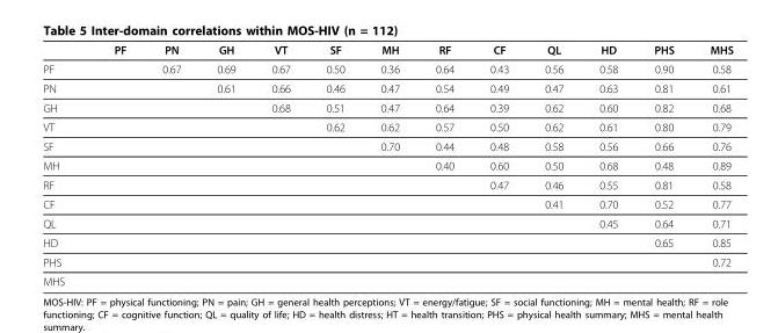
<table><thead><tr><td></td><td>PF</td><td>PN</td><td>GH</td><td>VT</td><td>SF</td><td>MH</td><td>RF</td><td>CF</td><td>QL</td><td>HD</td><td>PHS</td><td>MHS</td></tr></thead><tbody><tr><td>PF</td><td></td><td>0.67</td><td>0.69</td><td>0.67</td><td>0.50</td><td>0.36</td><td>0.64</td><td>0.43</td><td>0.56</td><td>0.58</td><td>0.90</td><td>0.58</td></tr><tr><td>PN</td><td></td><td></td><td>0.61</td><td>0.66</td><td>0.46</td><td>0.47</td><td>0.54</td><td>0.49</td><td>0.47</td><td>0.63</td><td>0.81</td><td>0.61</td></tr><tr><td>GH</td><td></td><td></td><td></td><td>0.68</td><td>0.51</td><td>0.47</td><td>0.64</td><td>0.39</td><td>0.62</td><td>0.60</td><td>0.82</td><td>0.68</td></tr><tr><td>VT</td><td></td><td></td><td></td><td></td><td>0.62</td><td>0.62</td><td>0.57</td><td>0.50</td><td>0.62</td><td>0.61</td><td>0.80</td><td>0.79</td></tr><tr><td>SF</td><td></td><td></td><td></td><td></td><td></td><td>0.70</td><td>0.44</td><td>0.48</td><td>0.58</td><td>0.56</td><td>0.66</td><td>0.76</td></tr><tr><td>MH</td><td></td><td></td><td></td><td></td><td></td><td></td><td>0.40</td><td>0.60</td><td>0.50</td><td>0.68</td><td>0.48</td><td>0.89</td></tr><tr><td>RF</td><td></td><td></td><td></td><td></td><td></td><td></td><td></td><td>0.47</td><td>0.46</td><td>0.55</td><td>0.81</td><td>0.58</td></tr><tr><td>CF</td><td></td><td></td><td></td><td></td><td></td><td></td><td></td><td></td><td>0.41</td><td>0.70</td><td>0.52</td><td>0.77</td></tr><tr><td>QL</td><td></td><td></td><td></td><td></td><td></td><td></td><td></td><td></td><td></td><td>0.45</td><td>0.64</td><td>0.71</td></tr><tr><td>HD</td><td></td><td></td><td></td><td></td><td></td><td></td><td></td><td></td><td></td><td></td><td>0.65</td><td>0.85</td></tr><tr><td>PHS</td><td></td><td></td><td></td><td></td><td></td><td></td><td></td><td></td><td></td><td></td><td></td><td>0.72</td></tr><tr><td>MHS</td><td></td><td></td><td></td><td></td><td></td><td></td><td></td><td></td><td></td><td></td><td></td><td></td></tr></tbody></table>